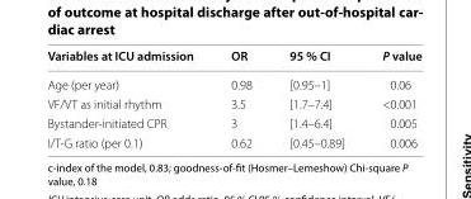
<table><thead><tr><td>Variables at ICU admission</td><td>OR</td><td>95 % CI</td><td>P value</td></tr></thead><tbody><tr><td>Age (per year)</td><td>0.98</td><td>[0.95–1]</td><td>0.06</td></tr><tr><td>VF/VT as initial rhythm</td><td>3.5</td><td>[1.7–7.4]</td><td>&lt;0.001</td></tr><tr><td>Bystander‑initiated CPR</td><td>3</td><td>[1.4–6.4]</td><td>0.005</td></tr><tr><td>I/T‑G ratio (per 0.1)</td><td>0.62</td><td>[0.45–0.89]</td><td>0.006</td></tr></tbody></table>